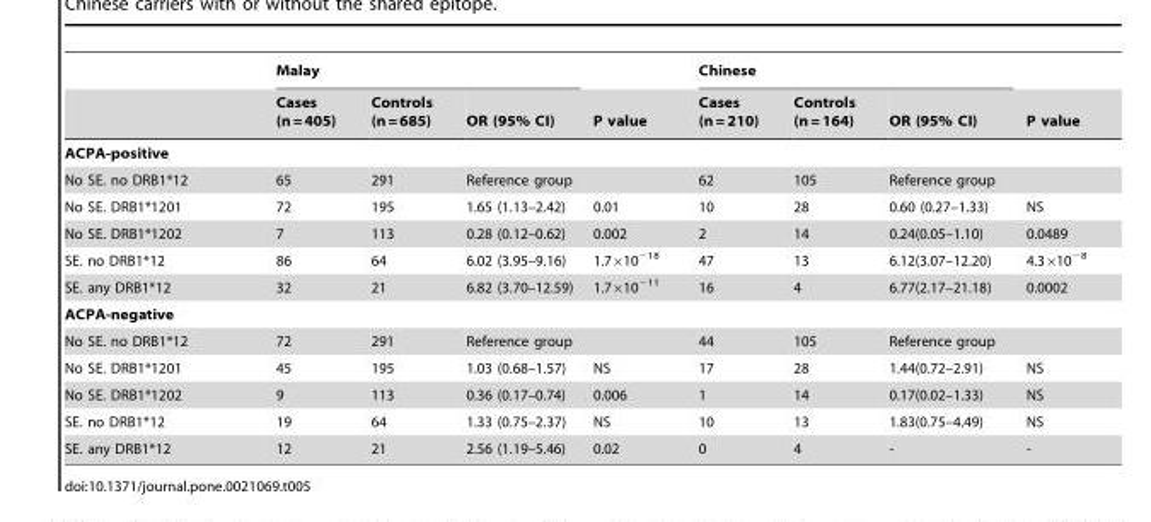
<table><thead><tr><td rowspan="2"></td><td colspan="3">Malay</td><td rowspan="2">P value</td><td colspan="3">Chinese</td><td rowspan="2">P value</td></tr><tr><td>Cases (n = 405)</td><td>Controls (n = 685)</td><td>OR (95% CI)</td><td>Cases (n = 210)</td><td>Controls (n = 164)</td><td>OR (95% CI)</td></tr></thead><tbody><tr><td colspan="9">ACPA-positive</td></tr><tr><td>No SE. no DRB1*12</td><td>65</td><td>291</td><td>Reference group</td><td></td><td>62</td><td>105</td><td>Reference group</td><td></td></tr><tr><td>No SE. DRB1*1201</td><td>72</td><td>195</td><td>1.65 (1.13–2.42)</td><td>0.01</td><td>10</td><td>28</td><td>0.60 (0.27–1.33)</td><td>NS</td></tr><tr><td>No SE. DRB1*1202</td><td>7</td><td>113</td><td>0.28 (0.12–0.62)</td><td>0.002</td><td>2</td><td>14</td><td>0.24(0.05–1.10)</td><td>0.0489</td></tr><tr><td>SE. no DRB1*12</td><td>86</td><td>64</td><td>6.02 (3.95–9.16)</td><td>1.7×10<sup>−18</sup></td><td>47</td><td>13</td><td>6.12(3.07–12.20)</td><td>4.3×10<sup>−8</sup></td></tr><tr><td>SE. any DRB1*12</td><td>32</td><td>21</td><td>6.82 (3.70–12.59)</td><td>1.7×10<sup>−11</sup></td><td>16</td><td>4</td><td>6.77(2.17–21.18)</td><td>0.0002</td></tr><tr><td colspan="9">ACPA-negative</td></tr><tr><td>No SE. no DRB1*12</td><td>72</td><td>291</td><td>Reference group</td><td></td><td>44</td><td>105</td><td>Reference group</td><td></td></tr><tr><td>No SE. DRB1*1201</td><td>45</td><td>195</td><td>1.03 (0.68–1.57)</td><td>NS</td><td>17</td><td>28</td><td>1.44(0.72–2.91)</td><td>NS</td></tr><tr><td>No SE. DRB1*1202</td><td>9</td><td>113</td><td>0.36 (0.17–0.74)</td><td>0.006</td><td>1</td><td>14</td><td>0.17(0.02–1.33)</td><td>NS</td></tr><tr><td>SE. no DRB1*12</td><td>19</td><td>64</td><td>1.33 (0.75–2.37)</td><td>NS</td><td>10</td><td>13</td><td>1.83(0.75–4.49)</td><td>NS</td></tr><tr><td>SE. any DRB1*12</td><td>12</td><td>21</td><td>2.56 (1.19–5.46)</td><td>0.02</td><td>0</td><td>4</td><td>-</td><td>-</td></tr></tbody></table>